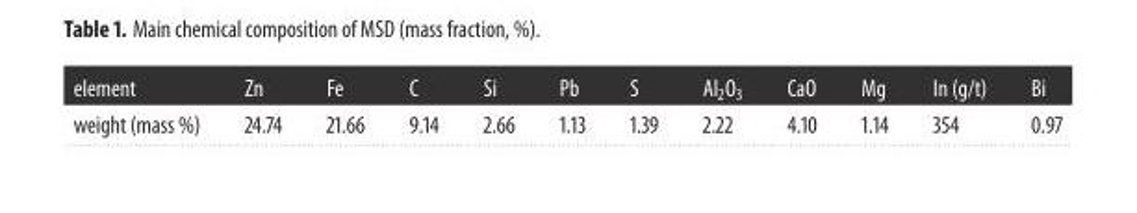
<table><thead><tr><td>element</td><td>Zn</td><td>Fe</td><td>C</td><td>Si</td><td>Pb</td><td>S</td><td>Al<sub>2</sub>O<sub>3</sub></td><td>CaO</td><td>Mg</td><td>In (g/t)</td><td>Bi</td></tr></thead><tbody><tr><td>weight (mass %)</td><td>24.74</td><td>21.66</td><td>9.14</td><td>2.66</td><td>1.13</td><td>1.39</td><td>2.22</td><td>4.10</td><td>1.14</td><td>354</td><td>0.97</td></tr></tbody></table>